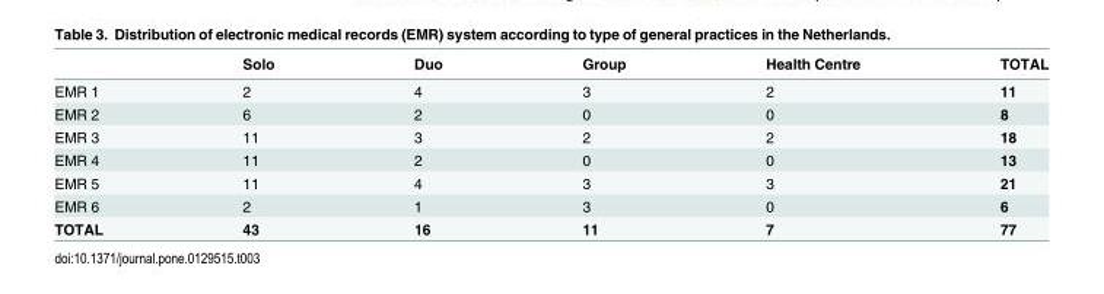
<table><thead><tr><td></td><td>Solo</td><td>Duo</td><td>Group</td><td>Health Centre</td><td>TOTAL</td></tr></thead><tbody><tr><td>EMR 1</td><td>2</td><td>4</td><td>3</td><td>2</td><td>11</td></tr><tr><td>EMR 2</td><td>6</td><td>2</td><td>0</td><td>0</td><td>8</td></tr><tr><td>EMR 3</td><td>11</td><td>3</td><td>2</td><td>2</td><td>18</td></tr><tr><td>EMR 4</td><td>11</td><td>2</td><td>0</td><td>0</td><td>13</td></tr><tr><td>EMR 5</td><td>11</td><td>4</td><td>3</td><td>3</td><td>21</td></tr><tr><td>EMR 6</td><td>2</td><td>1</td><td>3</td><td>0</td><td>6</td></tr><tr><td>TOTAL</td><td>43</td><td>16</td><td>11</td><td>7</td><td>77</td></tr></tbody></table>